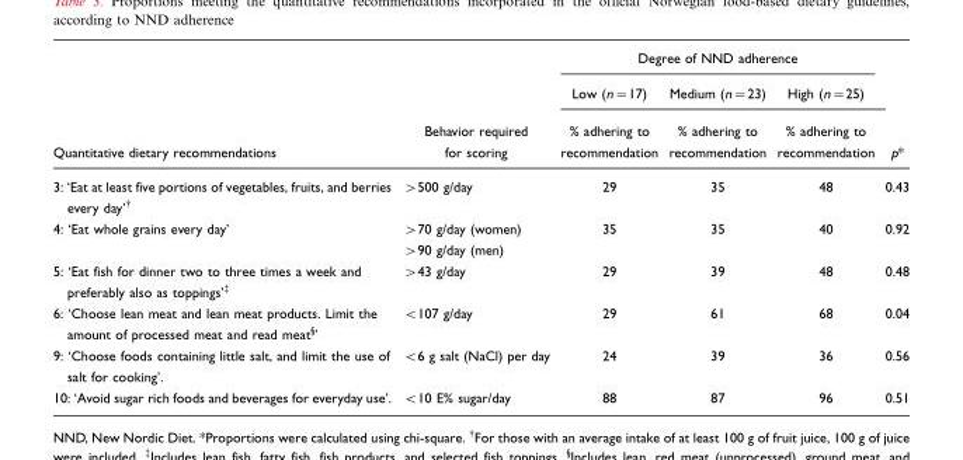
<table><thead><tr><td rowspan="3">Quantitative dietary recommendations</td><td rowspan="3">Behavior required for scoring</td><td colspan="3">Degree of NND adherence</td><td rowspan="3">p*</td></tr><tr><td rowspan="2">Low (n=17) % adhering to recommendation</td><td rowspan="2">Medium (n=23) % adhering to recommendation</td><td rowspan="2">High (n=25) % adhering to recommendation</td></tr><tr></tr></thead><tbody><tr><td>3: ‘Eat at least five portions of vegetables, fruits, and berries every day’†</td><td>&gt;500 g/day</td><td>29</td><td>35</td><td>48</td><td>0.43</td></tr><tr><td>4: ‘Eat whole grains every day’</td><td>&gt;70 g/day (women) &gt;90 g/day (men)</td><td>35</td><td>35</td><td>40</td><td>0.92</td></tr><tr><td>5: ‘Eat fish for dinner two to three times a week and preferably also as toppings’‡</td><td>&gt;43 g/day</td><td>29</td><td>39</td><td>48</td><td>0.48</td></tr><tr><td>6: ‘Choose lean meat and lean meat products. Limit the amount of processed meat and read meat§’</td><td>&lt;107 g/day</td><td>29</td><td>61</td><td>68</td><td>0.04</td></tr><tr><td>9: ‘Choose foods containing little salt, and limit the use of salt for cooking’.</td><td>&lt;6 g salt (NaCl) per day</td><td>24</td><td>39</td><td>36</td><td>0.56</td></tr><tr><td>10: ‘Avoid sugar rich foods and beverages for everyday use’.</td><td>&lt;10 E% sugar/day</td><td>88</td><td>87</td><td>96</td><td>0.51</td></tr></tbody></table>